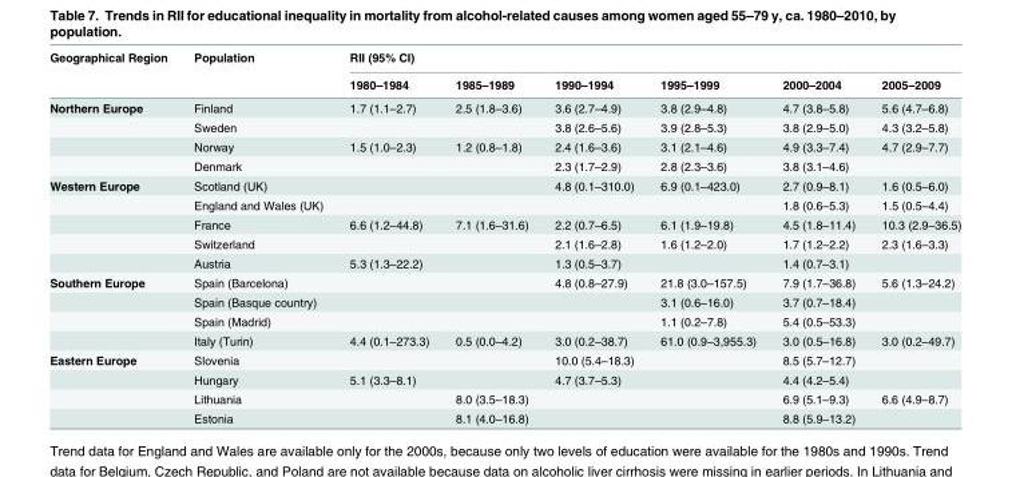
<table><thead><tr><td rowspan="2">Geographical Region</td><td rowspan="2">Population</td><td colspan="6">RII (95% CI)</td></tr><tr><td>1980–1984</td><td>1985–1989</td><td>1990–1994</td><td>1995–1999</td><td>2000–2004</td><td>2005–2009</td></tr></thead><tbody><tr><td rowspan="4">Northern Europe</td><td>Finland</td><td>1.7 (1.1–2.7)</td><td>2.5 (1.8–3.6)</td><td>3.6 (2.7–4.9)</td><td>3.8 (2.9–4.8)</td><td>4.7 (3.8–5.8)</td><td>5.6 (4.7–6.8)</td></tr><tr><td>Sweden</td><td></td><td></td><td>3.8 (2.6–5.6)</td><td>3.9 (2.8–5.3)</td><td>3.8 (2.9–5.0)</td><td>4.3 (3.2–5.8)</td></tr><tr><td>Norway</td><td>1.5 (1.0–2.3)</td><td>1.2 (0.8–1.8)</td><td>2.4 (1.6–3.6)</td><td>3.1 (2.1–4.6)</td><td>4.9 (3.3–7.4)</td><td>4.7 (2.9–7.7)</td></tr><tr><td>Denmark</td><td></td><td></td><td>2.3 (1.7–2.9)</td><td>2.8 (2.3–3.6)</td><td>3.8 (3.1–4.6)</td><td></td></tr><tr><td rowspan="5">Western Europe</td><td>Scotland (UK)</td><td></td><td></td><td>4.8 (0.1–310.0)</td><td>6.9 (0.1–423.0)</td><td>2.7 (0.9–8.1)</td><td>1.6 (0.5–6.0)</td></tr><tr><td>England and Wales (UK)</td><td></td><td></td><td></td><td></td><td>1.8 (0.6–5.3)</td><td>1.5 (0.5–4.4)</td></tr><tr><td>France</td><td>6.6 (1.2–44.8)</td><td>7.1 (1.6–31.6)</td><td>2.2 (0.7–6.5)</td><td>6.1 (1.9–19.8)</td><td>4.5 (1.8–11.4)</td><td>10.3 (2.9–36.5)</td></tr><tr><td>Switzerland</td><td></td><td></td><td>2.1 (1.6–2.8)</td><td>1.6 (1.2–2.0)</td><td>1.7 (1.2–2.2)</td><td>2.3 (1.6–3.3)</td></tr><tr><td>Austria</td><td>5.3 (1.3–22.2)</td><td></td><td>1.3 (0.5–3.7)</td><td></td><td>1.4 (0.7–3.1)</td><td></td></tr><tr><td rowspan="4">Southern Europe</td><td>Spain (Barcelona)</td><td></td><td></td><td>4.8 (0.8–27.9)</td><td>21.8 (3.0–157.5)</td><td>7.9 (1.7–36.8)</td><td>5.6 (1.3–24.2)</td></tr><tr><td>Spain (Basque country)</td><td></td><td></td><td></td><td>3.1 (0.6–16.0)</td><td>3.7 (0.7–18.4)</td><td></td></tr><tr><td>Spain (Madrid)</td><td></td><td></td><td></td><td>1.1 (0.2–7.8)</td><td>5.4 (0.5–53.3)</td><td></td></tr><tr><td>Italy (Turin)</td><td>4.4 (0.1–273.3)</td><td>0.5 (0.0–4.2)</td><td>3.0 (0.2–38.7)</td><td>61.0 (0.9–3,955.3)</td><td>3.0 (0.5–16.8)</td><td>3.0 (0.2–49.7)</td></tr><tr><td rowspan="4">Eastern Europe</td><td>Slovenia</td><td></td><td></td><td>10.0 (5.4–18.3)</td><td></td><td>8.5 (5.7–12.7)</td><td></td></tr><tr><td>Hungary</td><td>5.1 (3.3–8.1)</td><td></td><td>4.7 (3.7–5.3)</td><td></td><td>4.4 (4.2–5.4)</td><td></td></tr><tr><td>Lithuania</td><td></td><td>8.0 (3.5–18.3)</td><td></td><td></td><td>6.9 (5.1–9.3)</td><td>6.6 (4.9–8.7)</td></tr><tr><td>Estonia</td><td></td><td>8.1 (4.0–16.8)</td><td></td><td></td><td>8.8 (5.9–13.2)</td><td></td></tr></tbody></table>